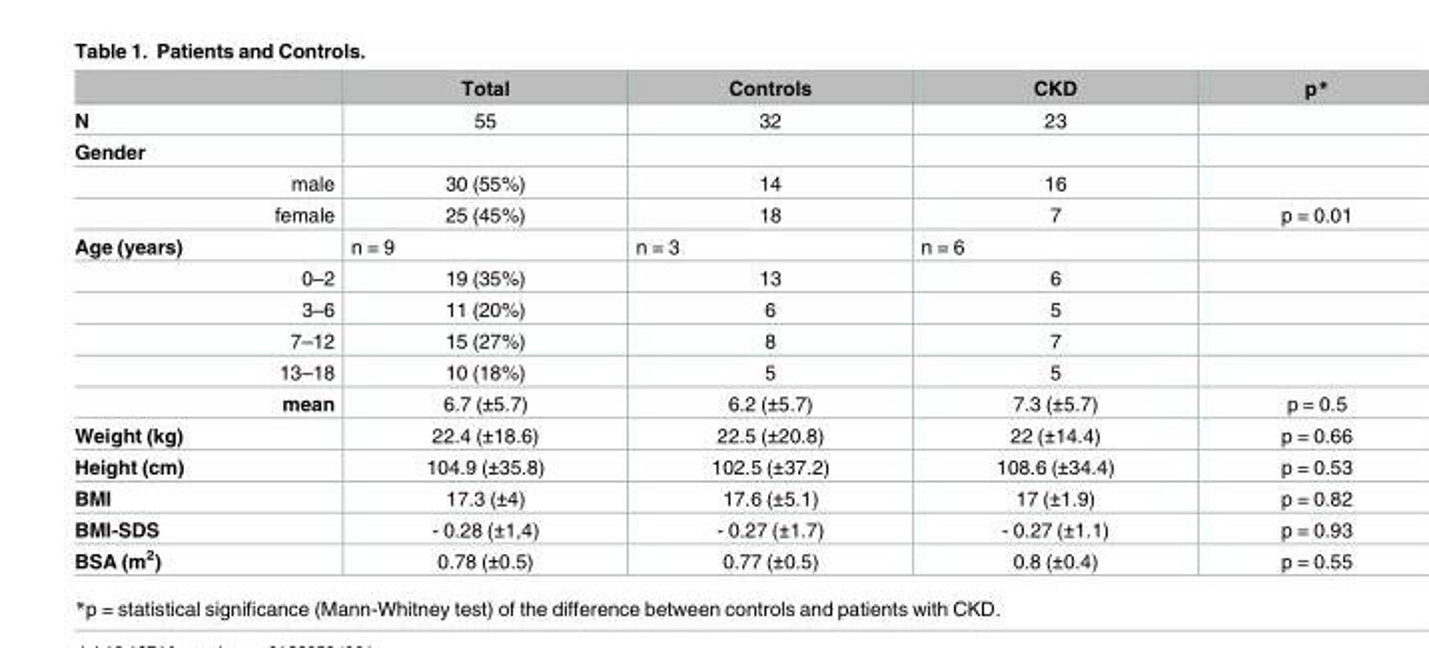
<table><thead><tr><td></td><td>Total</td><td>Controls</td><td>CKD</td><td>p*</td></tr></thead><tbody><tr><td>N</td><td>55</td><td>32</td><td>23</td><td></td></tr><tr><td colspan="5">Gender</td></tr><tr><td>male</td><td>30 (55%)</td><td>14</td><td>16</td><td></td></tr><tr><td>female</td><td>25 (45%)</td><td>18</td><td>7</td><td>p = 0.01</td></tr><tr><td>Age (years)</td><td>n = 9</td><td>n = 3</td><td>n = 6</td><td></td></tr><tr><td>0–2</td><td>19 (35%)</td><td>13</td><td>6</td><td></td></tr><tr><td>3–6</td><td>11 (20%)</td><td>6</td><td>5</td><td></td></tr><tr><td>7–12</td><td>15 (27%)</td><td>8</td><td>7</td><td></td></tr><tr><td>13–18</td><td>10 (18%)</td><td>5</td><td>5</td><td></td></tr><tr><td>mean</td><td>6.7 (±5.7)</td><td>6.2 (±5.7)</td><td>7.3 (±5.7)</td><td>p = 0.5</td></tr><tr><td>Weight (kg)</td><td>22.4 (±18.6)</td><td>22.5 (±20.8)</td><td>22 (±14.4)</td><td>p = 0.66</td></tr><tr><td>Height (cm)</td><td>104.9 (±35.8)</td><td>102.5 (±37.2)</td><td>108.6 (±34.4)</td><td>p = 0.53</td></tr><tr><td>BMI</td><td>17.3 (±4)</td><td>17.6 (±5.1)</td><td>17 (±1.9)</td><td>p = 0.82</td></tr><tr><td>BMI-SDS</td><td>- 0.28 (±1,4)</td><td>- 0.27 (±1.7)</td><td>- 0.27 (±1.1)</td><td>p = 0.93</td></tr><tr><td>BSA (m<sup>2</sup>)</td><td>0.78 (±0.5)</td><td>0.77 (±0.5)</td><td>0.8 (±0.4)</td><td>p = 0.55</td></tr></tbody></table>